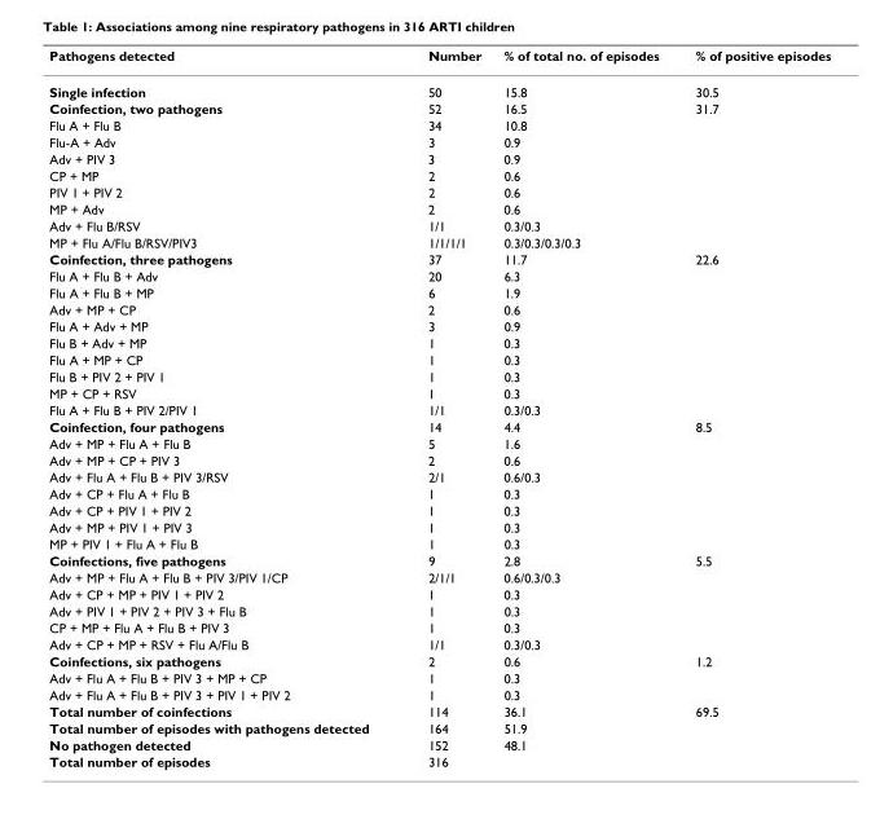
<table><thead><tr><td>Pathogens detected</td><td>Number</td><td>% of total no. of episodes</td><td>% of positive episodes</td></tr></thead><tbody><tr><td>Single infection</td><td>50</td><td>15.8</td><td>30.5</td></tr><tr><td>Coinfection, two pathogens</td><td>52</td><td>16.5</td><td>31.7</td></tr><tr><td>Flu A + Flu B</td><td>34</td><td>10.8</td><td></td></tr><tr><td>Flu-A + Adv</td><td>3</td><td>0.9</td><td></td></tr><tr><td>Adv + PIV 3</td><td>3</td><td>0.9</td><td></td></tr><tr><td>CP + MP</td><td>2</td><td>0.6</td><td></td></tr><tr><td>PIV 1 + PIV 2</td><td>2</td><td>0.6</td><td></td></tr><tr><td>MP + Adv</td><td>2</td><td>0.6</td><td></td></tr><tr><td>Adv + Flu B/RSV</td><td>1/1</td><td>0.3/0.3</td><td></td></tr><tr><td>MP + Flu A/Flu B/RSV/PIV3</td><td>1/1/1/1</td><td>0.3/0.3/0.3/0.3</td><td></td></tr><tr><td>Coinfection, three pathogens</td><td>37</td><td>11.7</td><td>22.6</td></tr><tr><td>Flu A + Flu B + Adv</td><td>20</td><td>6.3</td><td></td></tr><tr><td>Flu A + Flu B + MP</td><td>6</td><td>1.9</td><td></td></tr><tr><td>Adv + MP + CP</td><td>2</td><td>0.6</td><td></td></tr><tr><td>Flu A + Adv + MP</td><td>3</td><td>0.9</td><td></td></tr><tr><td>Flu B + Adv + MP</td><td>1</td><td>0.3</td><td></td></tr><tr><td>Flu A + MP + CP</td><td>1</td><td>0.3</td><td></td></tr><tr><td>Flu B + PIV 2 + PIV 1</td><td>1</td><td>0.3</td><td></td></tr><tr><td>MP + CP + RSV</td><td>1</td><td>0.3</td><td></td></tr><tr><td>Flu A + Flu B + PIV 2/PIV 1</td><td>1/1</td><td>0.3/0.3</td><td></td></tr><tr><td>Coinfection, four pathogens</td><td>14</td><td>4.4</td><td>8.5</td></tr><tr><td>Adv + MP + Flu A + Flu B</td><td>5</td><td>1.6</td><td></td></tr><tr><td>Adv + MP + CP + PIV 3</td><td>2</td><td>0.6</td><td></td></tr><tr><td>Adv + Flu A + Flu B + PIV 3/RSV</td><td>2/1</td><td>0.6/0.3</td><td></td></tr><tr><td>Adv + CP + Flu A + Flu B</td><td>1</td><td>0.3</td><td></td></tr><tr><td>Adv + CP + PIV 1 + PIV 2</td><td>1</td><td>0.3</td><td></td></tr><tr><td>Adv + MP + PIV 1 + PIV 3</td><td>1</td><td>0.3</td><td></td></tr><tr><td>MP + PIV 1 + Flu A + Flu B</td><td>1</td><td>0.3</td><td></td></tr><tr><td>Coinfections, five pathogens</td><td>9</td><td>2.8</td><td>5.5</td></tr><tr><td>Adv + MP + Flu A + Flu B + PIV 3/PIV 1/CP</td><td>2/1/1</td><td>0.6/0.3/0.3</td><td></td></tr><tr><td>Adv + CP + MP + PIV 1 + PIV 2</td><td>1</td><td>0.3</td><td></td></tr><tr><td>Adv + PIV 1 + PIV 2 + PIV 3 + Flu B</td><td>1</td><td>0.3</td><td></td></tr><tr><td>CP + MP + Flu A + Flu B + PIV 3</td><td>1</td><td>0.3</td><td></td></tr><tr><td>Adv + CP + MP + RSV + Flu A/Flu B</td><td>1/1</td><td>0.3/0.3</td><td></td></tr><tr><td>Coinfections, six pathogens</td><td>2</td><td>0.6</td><td>1.2</td></tr><tr><td>Adv + Flu A + Flu B + PIV 3 + MP + CP</td><td>1</td><td>0.3</td><td></td></tr><tr><td>Adv + Flu A + Flu B + PIV 3 + PIV 1 + PIV 2</td><td>1</td><td>0.3</td><td></td></tr><tr><td>Total number of coinfections</td><td>114</td><td>36.1</td><td>69.5</td></tr><tr><td>Total number of episodes with pathogens detected</td><td>164</td><td>51.9</td><td></td></tr><tr><td>No pathogen detected</td><td>152</td><td>48.1</td><td></td></tr><tr><td>Total number of episodes</td><td>316</td><td></td><td></td></tr></tbody></table>